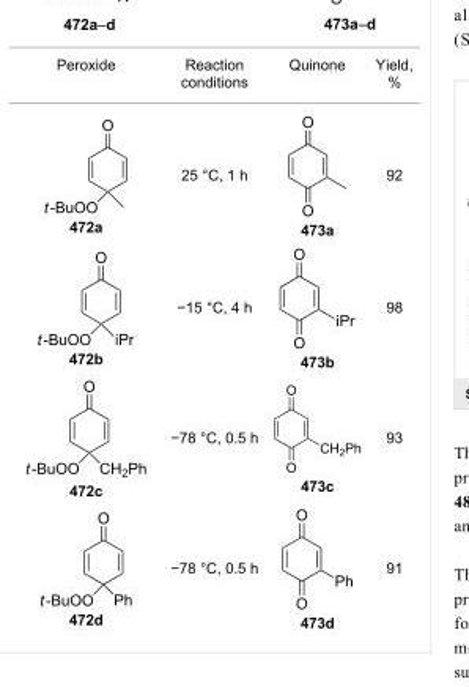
<table><tbody><tr><td>Peroxide</td><td>Reaction conditions</td><td>Quinone</td><td>Yield, %</td></tr><tr><td>472a</td><td>25 °C, 1 h</td><td>473a</td><td>92</td></tr><tr><td>472b</td><td>−15 °C, 4 h</td><td>473b</td><td>98</td></tr><tr><td>472c</td><td>−78 °C, 0.5 h</td><td>473c</td><td>93</td></tr><tr><td>472d</td><td>−78 °C, 0.5 h</td><td>473d</td><td>91</td></tr></tbody></table>